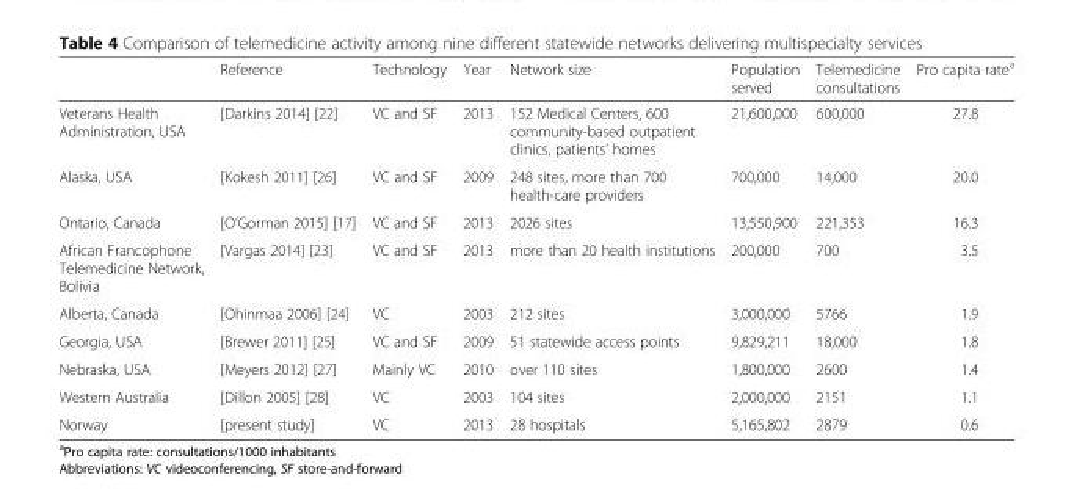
<table><thead><tr><td></td><td>Reference</td><td>Technology</td><td>Year</td><td>Network size</td><td>Population served</td><td>Telemedicine consultations</td><td>Pro capita rate<sup>a</sup></td></tr></thead><tbody><tr><td>Veterans Health Administration, USA</td><td>[Darkins 2014] [22]</td><td>VC and SF</td><td>2013</td><td>152 Medical Centers, 600 community-based outpatient clinics, patients’ homes</td><td>21,600,000</td><td>600,000</td><td>27.8</td></tr><tr><td>Alaska, USA</td><td>[Kokesh 2011] [26]</td><td>VC and SF</td><td>2009</td><td>248 sites, more than 700 health-care providers</td><td>700,000</td><td>14,000</td><td>20.0</td></tr><tr><td>Ontario, Canada</td><td>[O’Gorman 2015] [17]</td><td>VC and SF</td><td>2013</td><td>2026 sites</td><td>13,550,900</td><td>221,353</td><td>16.3</td></tr><tr><td>African Francophone Telemedicine Network, Bolivia</td><td>[Vargas 2014] [23]</td><td>VC and SF</td><td>2013</td><td>more than 20 health institutions</td><td>200,000</td><td>700</td><td>3.5</td></tr><tr><td>Alberta, Canada</td><td>[Ohinmaa 2006] [24]</td><td>VC</td><td>2003</td><td>212 sites</td><td>3,000,000</td><td>5766</td><td>1.9</td></tr><tr><td>Georgia, USA</td><td>[Brewer 2011] [25]</td><td>VC and SF</td><td>2009</td><td>51 statewide access points</td><td>9,829,211</td><td>18,000</td><td>1.8</td></tr><tr><td>Nebraska, USA</td><td>[Meyers 2012] [27]</td><td>Mainly VC</td><td>2010</td><td>over 110 sites</td><td>1,800,000</td><td>2600</td><td>1.4</td></tr><tr><td>Western Australia</td><td>[Dillon 2005] [28]</td><td>VC</td><td>2003</td><td>104 sites</td><td>2,000,000</td><td>2151</td><td>1.1</td></tr><tr><td>Norway</td><td>[present study]</td><td>VC</td><td>2013</td><td>28 hospitals</td><td>5,165,802</td><td>2879</td><td>0.6</td></tr></tbody></table>